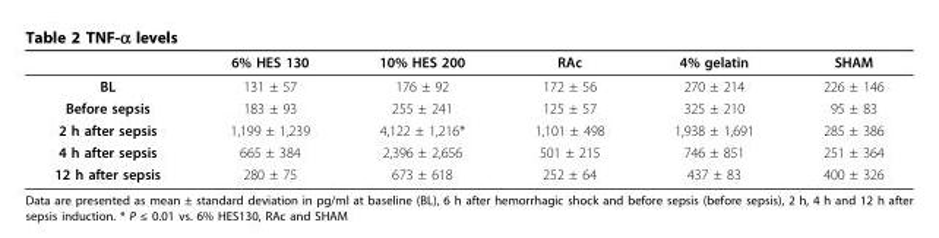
<table><thead><tr><td></td><td>6% HES 130</td><td>10% HES 200</td><td>RAc</td><td>4% gelatin</td><td>SHAM</td></tr></thead><tbody><tr><td>BL</td><td>131 ± 57</td><td>176 ± 92</td><td>172 ± 56</td><td>270 ± 214</td><td>226 ± 146</td></tr><tr><td>Before sepsis</td><td>183 ± 93</td><td>255 ± 241</td><td>125 ± 57</td><td>325 ± 210</td><td>95 ± 83</td></tr><tr><td>2 h after sepsis</td><td>1,199 ± 1,239</td><td>4,122 ± 1,216*</td><td>1,101 ± 498</td><td>1,938 ± 1,691</td><td>285 ± 386</td></tr><tr><td>4 h after sepsis</td><td>665 ± 384</td><td>2,396 ± 2,656</td><td>501 ± 215</td><td>746 ± 851</td><td>251 ± 364</td></tr><tr><td>12 h after sepsis</td><td>280 ± 75</td><td>673 ± 618</td><td>252 ± 64</td><td>437 ± 83</td><td>400 ± 326</td></tr></tbody></table>